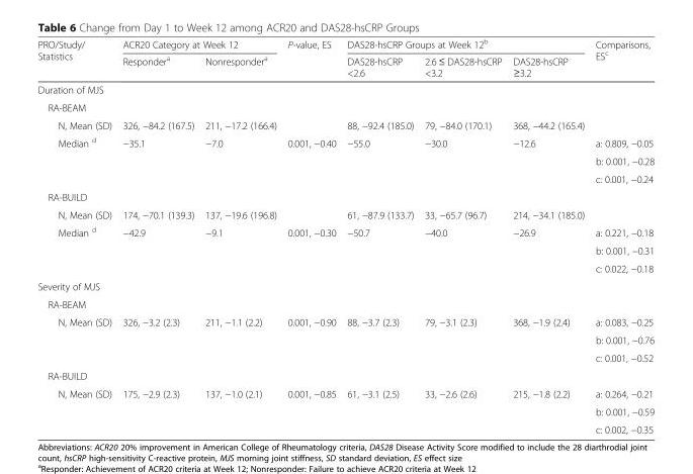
<table><thead><tr><td rowspan="2">PRO/Study/ Statistics</td><td colspan="2">ACR20 Category at Week 12</td><td rowspan="2">P-value, ES</td><td colspan="3">DAS28-hsCRP Groups at Week 12<sup>b</sup></td><td rowspan="2">Comparisons, ES<sup>c</sup></td></tr><tr><td>Responder<sup>a</sup></td><td>Nonresponder<sup>a</sup></td><td>DAS28-hsCRP &lt;2.6</td><td>2.6 ≤ DAS28-hsCRP &lt;3.2</td><td>DAS28-hsCRP ≥3.2</td></tr></thead><tbody><tr><td colspan="8">Duration of MJS</td></tr><tr><td colspan="8">RA-BEAM</td></tr><tr><td>N, Mean (SD)</td><td>326, −84.2 (167.5)</td><td>211, −17.2 (166.4)</td><td></td><td>88, −92.4 (185.0)</td><td>79, −84.0 (170.1)</td><td>368, −44.2 (165.4)</td><td></td></tr><tr><td rowspan="3">Median <sup>d</sup></td><td rowspan="3">−35.1</td><td rowspan="3">−7.0</td><td rowspan="3">0.001, −0.40</td><td rowspan="3">−55.0</td><td rowspan="3">−30.0</td><td rowspan="3">−12.6</td><td>a: 0.809, −0.05</td></tr><tr><td>b: 0.001, −0.28</td></tr><tr><td>c: 0.001, −0.24</td></tr><tr><td colspan="8">RA-BUILD</td></tr><tr><td>N, Mean (SD)</td><td>174, −70.1 (139.3)</td><td>137, −19.6 (196.8)</td><td></td><td>61, −87.9 (133.7)</td><td>33, −65.7 (96.7)</td><td>214, −34.1 (185.0)</td><td></td></tr><tr><td rowspan="3">Median <sup>d</sup></td><td rowspan="3">−42.9</td><td rowspan="3">−9.1</td><td rowspan="3">0.001, −0.30</td><td rowspan="3">−50.7</td><td rowspan="3">−40.0</td><td rowspan="3">−26.9</td><td>a: 0.221, −0.18</td></tr><tr><td>b: 0.001, −0.31</td></tr><tr><td>c: 0.022, −0.18</td></tr><tr><td colspan="8">Severity of MJS</td></tr><tr><td colspan="8">RA-BEAM</td></tr><tr><td rowspan="3">N, Mean (SD)</td><td rowspan="3">326, −3.2 (2.3)</td><td rowspan="3">211, −1.1 (2.2)</td><td rowspan="3">0.001, −0.90</td><td rowspan="3">88, −3.7 (2.3)</td><td rowspan="3">79, −3.1 (2.3)</td><td rowspan="3">368, −1.9 (2.4)</td><td>a: 0.083, −0.25</td></tr><tr><td>b: 0.001, −0.76</td></tr><tr><td>c: 0.001, −0.52</td></tr><tr><td colspan="8">RA-BUILD</td></tr><tr><td rowspan="3">N, Mean (SD)</td><td rowspan="3">175, −2.9 (2.3)</td><td rowspan="3">137, −1.0 (2.1)</td><td rowspan="3">0.001, −0.85</td><td rowspan="3">61, −3.1 (2.5)</td><td rowspan="3">33, −2.6 (2.6)</td><td rowspan="3">215, −1.8 (2.2)</td><td>a: 0.264, −0.21</td></tr><tr><td>b: 0.001, −0.59</td></tr><tr><td>c: 0.002, −0.35</td></tr></tbody></table>